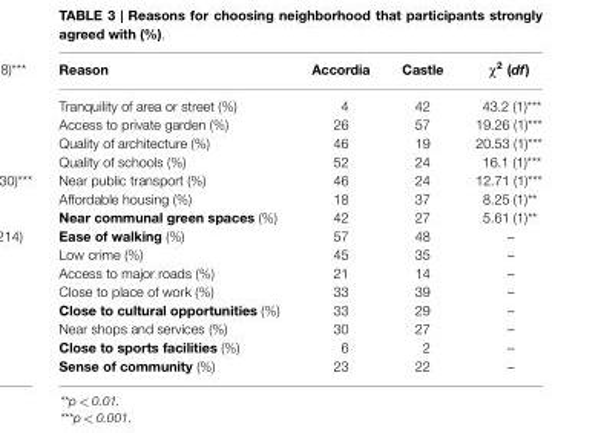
<table><thead><tr><td>Reason</td><td>Accordia</td><td>Castle</td><td>χ<sup>2</sup> (df)</td></tr></thead><tbody><tr><td>Tranquility of area or street (%)</td><td>4</td><td>42</td><td>43.2 (1)***</td></tr><tr><td>Access to private garden (%)</td><td>26</td><td>57</td><td>19.26 (1)***</td></tr><tr><td>Quality of architecture (%)</td><td>46</td><td>19</td><td>20.53 (1)***</td></tr><tr><td>Quality of schools (%)</td><td>52</td><td>24</td><td>16.1 (1)***</td></tr><tr><td>Near public transport (%)</td><td>46</td><td>24</td><td>12.71 (1)***</td></tr><tr><td>Affordable housing (%)</td><td>18</td><td>37</td><td>8.25 (1)**</td></tr><tr><td>Near communal green spaces (%)</td><td>42</td><td>27</td><td>5.61 (1)**</td></tr><tr><td>Ease of walking (%)</td><td>57</td><td>48</td><td>–</td></tr><tr><td>Low crime (%)</td><td>45</td><td>35</td><td>–</td></tr><tr><td>Access to major roads (%)</td><td>21</td><td>14</td><td>–</td></tr><tr><td>Close to place of work (%)</td><td>33</td><td>39</td><td>–</td></tr><tr><td>Close to cultural opportunities (%)</td><td>33</td><td>29</td><td>–</td></tr><tr><td>Near shops and services (%)</td><td>30</td><td>27</td><td>–</td></tr><tr><td>Close to sports facilities (%)</td><td>6</td><td>2</td><td>–</td></tr><tr><td>Sense of community (%)</td><td>23</td><td>22</td><td>–</td></tr></tbody></table>